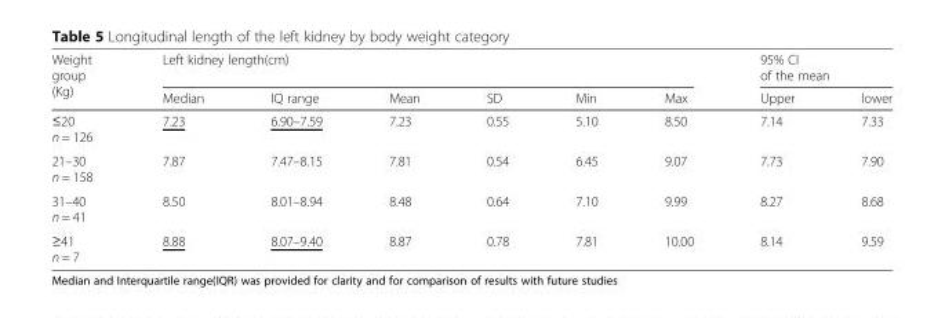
<table><thead><tr><td rowspan="2">Weight group (Kg)</td><td colspan="6">Left kidney length(cm)</td><td colspan="2">95% CI of the mean</td></tr><tr><td>Median</td><td>IQ range</td><td>Mean</td><td>SD</td><td>Min</td><td>Max</td><td>Upper</td><td>lower</td></tr></thead><tbody><tr><td>≤20 n = 126</td><td>7.23</td><td>6.90–7.59</td><td>7.23</td><td>0.55</td><td>5.10</td><td>8.50</td><td>7.14</td><td>7.33</td></tr><tr><td>21–30 n = 158</td><td>7.87</td><td>7.47–8.15</td><td>7.81</td><td>0.54</td><td>6.45</td><td>9.07</td><td>7.73</td><td>7.90</td></tr><tr><td>31–40 n = 41</td><td>8.50</td><td>8.01–8.94</td><td>8.48</td><td>0.64</td><td>7.10</td><td>9.99</td><td>8.27</td><td>8.68</td></tr><tr><td>≥41 n = 7</td><td>8.88</td><td>8.07–9.40</td><td>8.87</td><td>0.78</td><td>7.81</td><td>10.00</td><td>8.14</td><td>9.59</td></tr></tbody></table>